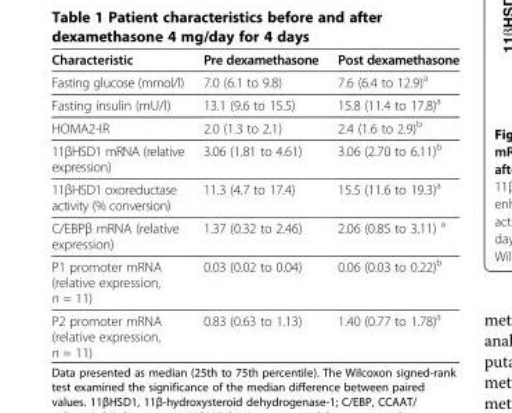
<table><thead><tr><td>Characteristic</td><td>Pre dexamethasone</td><td>Post dexamethasone</td></tr></thead><tbody><tr><td>Fasting glucose (mmol/l)</td><td>7.0 (6.1 to 9.8)</td><td>7.6 (6.4 to 12.9)<sup>a</sup></td></tr><tr><td>Fasting insulin (mU/l)</td><td>13.1 (9.6 to 15.5)</td><td>15.8 (11.4 to 17.8)<sup>a</sup></td></tr><tr><td>HOMA2-IR</td><td>2.0 (1.3 to 2.1)</td><td>2.4 (1.6 to 2.9)<sup>b</sup></td></tr><tr><td>11βHSD1 mRNA (relative expression)</td><td>3.06 (1.81 to 4.61)</td><td>3.06 (2.70 to 6.11)<sup>b</sup></td></tr><tr><td>11βHSD1 oxoreductase activity (% conversion)</td><td>11.3 (4.7 to 17.4)</td><td>15.5 (11.6 to 19.3)<sup>a</sup></td></tr><tr><td>C/EBPβ mRNA (relative expression)</td><td>1.37 (0.32 to 2.46)</td><td>2.06 (0.85 to 3.11) <sup>a</sup></td></tr><tr><td>P1 promoter mRNA (relative expression, n = 11)</td><td>0.03 (0.02 to 0.04)</td><td>0.06 (0.03 to 0.22)<sup>b</sup></td></tr><tr><td>P2 promoter mRNA (relative expression, n = 11)</td><td>0.83 (0.63 to 1.13)</td><td>1.40 (0.77 to 1.78)<sup>a</sup></td></tr></tbody></table>